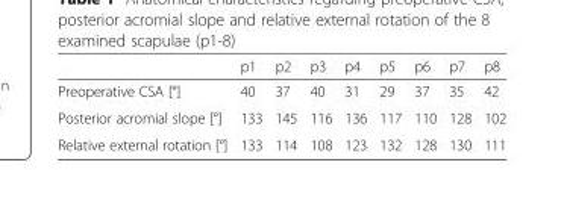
<table><thead><tr><td></td><td>p1</td><td>p2</td><td>p3</td><td>p4</td><td>p5</td><td>p6</td><td>p7</td><td>p8</td></tr></thead><tbody><tr><td>Preoperative CSA [°]</td><td>40</td><td>37</td><td>40</td><td>31</td><td>29</td><td>37</td><td>35</td><td>42</td></tr><tr><td>Posterior acromial slope [°]</td><td>133</td><td>145</td><td>116</td><td>136</td><td>117</td><td>110</td><td>128</td><td>102</td></tr><tr><td>Relative external rotation [°]</td><td>133</td><td>114</td><td>108</td><td>123</td><td>132</td><td>128</td><td>130</td><td>111</td></tr></tbody></table>